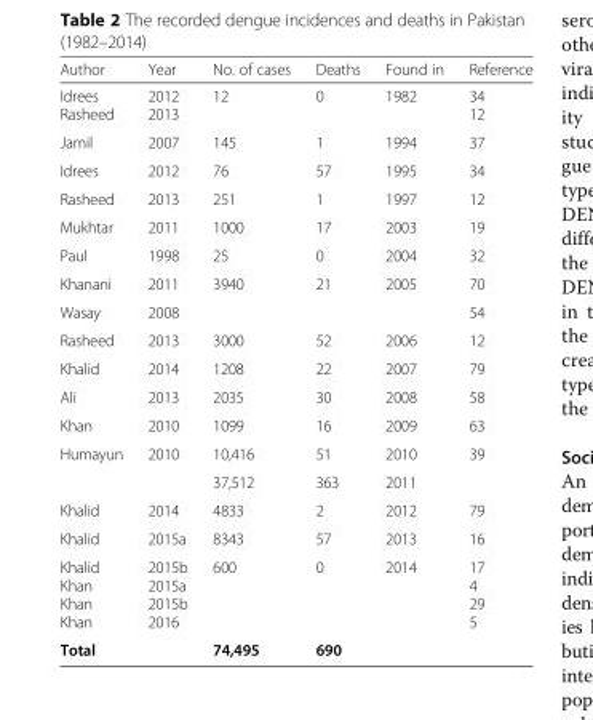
<table><thead><tr><td>Author</td><td>Year</td><td>No. of cases</td><td>Deaths</td><td>Found in</td><td>Reference</td></tr></thead><tbody><tr><td>Idrees Rasheed</td><td>2012 2013</td><td>12</td><td>0</td><td>1982</td><td>34 12</td></tr><tr><td>Jamil</td><td>2007</td><td>145</td><td>1</td><td>1994</td><td>37</td></tr><tr><td>Idrees</td><td>2012</td><td>76</td><td>57</td><td>1995</td><td>34</td></tr><tr><td>Rasheed</td><td>2013</td><td>251</td><td>1</td><td>1997</td><td>12</td></tr><tr><td>Mukhtar</td><td>2011</td><td>1000</td><td>17</td><td>2003</td><td>19</td></tr><tr><td>Paul</td><td>1998</td><td>25</td><td>0</td><td>2004</td><td>32</td></tr><tr><td>Khanani</td><td>2011</td><td>3940</td><td>21</td><td>2005</td><td>70</td></tr><tr><td>Wasay</td><td>2008</td><td></td><td></td><td></td><td>54</td></tr><tr><td>Rasheed</td><td>2013</td><td>3000</td><td>52</td><td>2006</td><td>12</td></tr><tr><td>Khalid</td><td>2014</td><td>1208</td><td>22</td><td>2007</td><td>79</td></tr><tr><td>Ali</td><td>2013</td><td>2035</td><td>30</td><td>2008</td><td>58</td></tr><tr><td>Khan</td><td>2010</td><td>1099</td><td>16</td><td>2009</td><td>63</td></tr><tr><td rowspan="2">Humayun</td><td>2010</td><td>10,416</td><td>51</td><td>2010</td><td>39</td></tr><tr><td></td><td>37,512</td><td>363</td><td>2011</td><td></td></tr><tr><td>Khalid</td><td>2014</td><td>4833</td><td>2</td><td>2012</td><td>79</td></tr><tr><td>Khalid</td><td>2015a</td><td>8343</td><td>57</td><td>2013</td><td>16</td></tr><tr><td>Khalid Khan Khan Khan</td><td>2015b 2015a 2015b 2016</td><td>600</td><td>0</td><td>2014</td><td>17 4 29 5</td></tr><tr><td colspan="2">Total</td><td>74,495</td><td>690</td><td colspan="2"></td></tr></tbody></table>